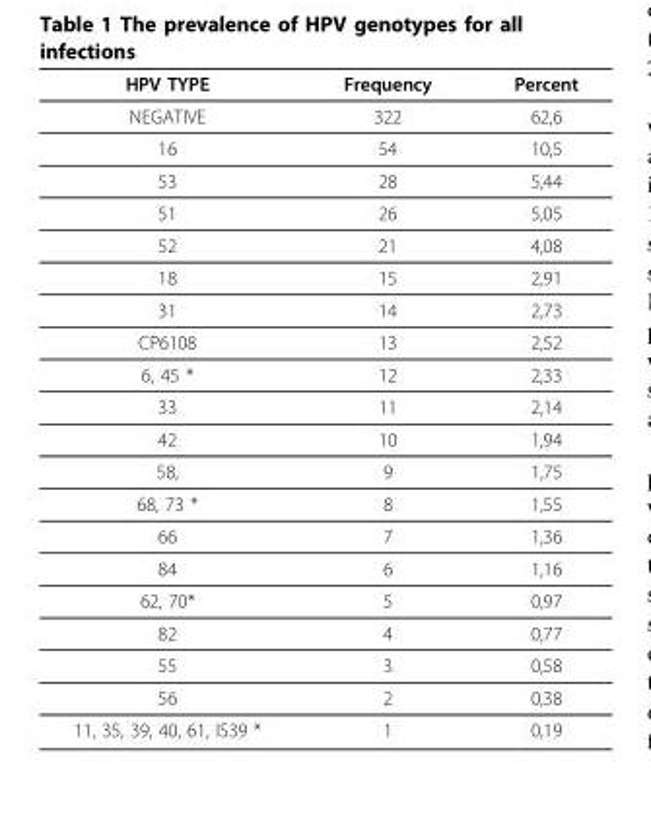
<table><thead><tr><td>HPV TYPE</td><td>Frequency</td><td>Percent</td></tr></thead><tbody><tr><td>NEGATIVE</td><td>322</td><td>62,6</td></tr><tr><td>16</td><td>54</td><td>10,5</td></tr><tr><td>53</td><td>28</td><td>5,44</td></tr><tr><td>51</td><td>26</td><td>5,05</td></tr><tr><td>52</td><td>21</td><td>4,08</td></tr><tr><td>18</td><td>15</td><td>2,91</td></tr><tr><td>31</td><td>14</td><td>2,73</td></tr><tr><td>CP6108</td><td>13</td><td>2,52</td></tr><tr><td>6, 45 *</td><td>12</td><td>2,33</td></tr><tr><td>33</td><td>11</td><td>2,14</td></tr><tr><td>42</td><td>10</td><td>1,94</td></tr><tr><td>58,</td><td>9</td><td>1,75</td></tr><tr><td>68, 73 *</td><td>8</td><td>1,55</td></tr><tr><td>66</td><td>7</td><td>1,36</td></tr><tr><td>84</td><td>6</td><td>1,16</td></tr><tr><td>62, 70*</td><td>5</td><td>0,97</td></tr><tr><td>82</td><td>4</td><td>0,77</td></tr><tr><td>55</td><td>3</td><td>0,58</td></tr><tr><td>56</td><td>2</td><td>0,38</td></tr><tr><td>11, 35, 39, 40, 61, IS39 *</td><td>1</td><td>0,19</td></tr></tbody></table>